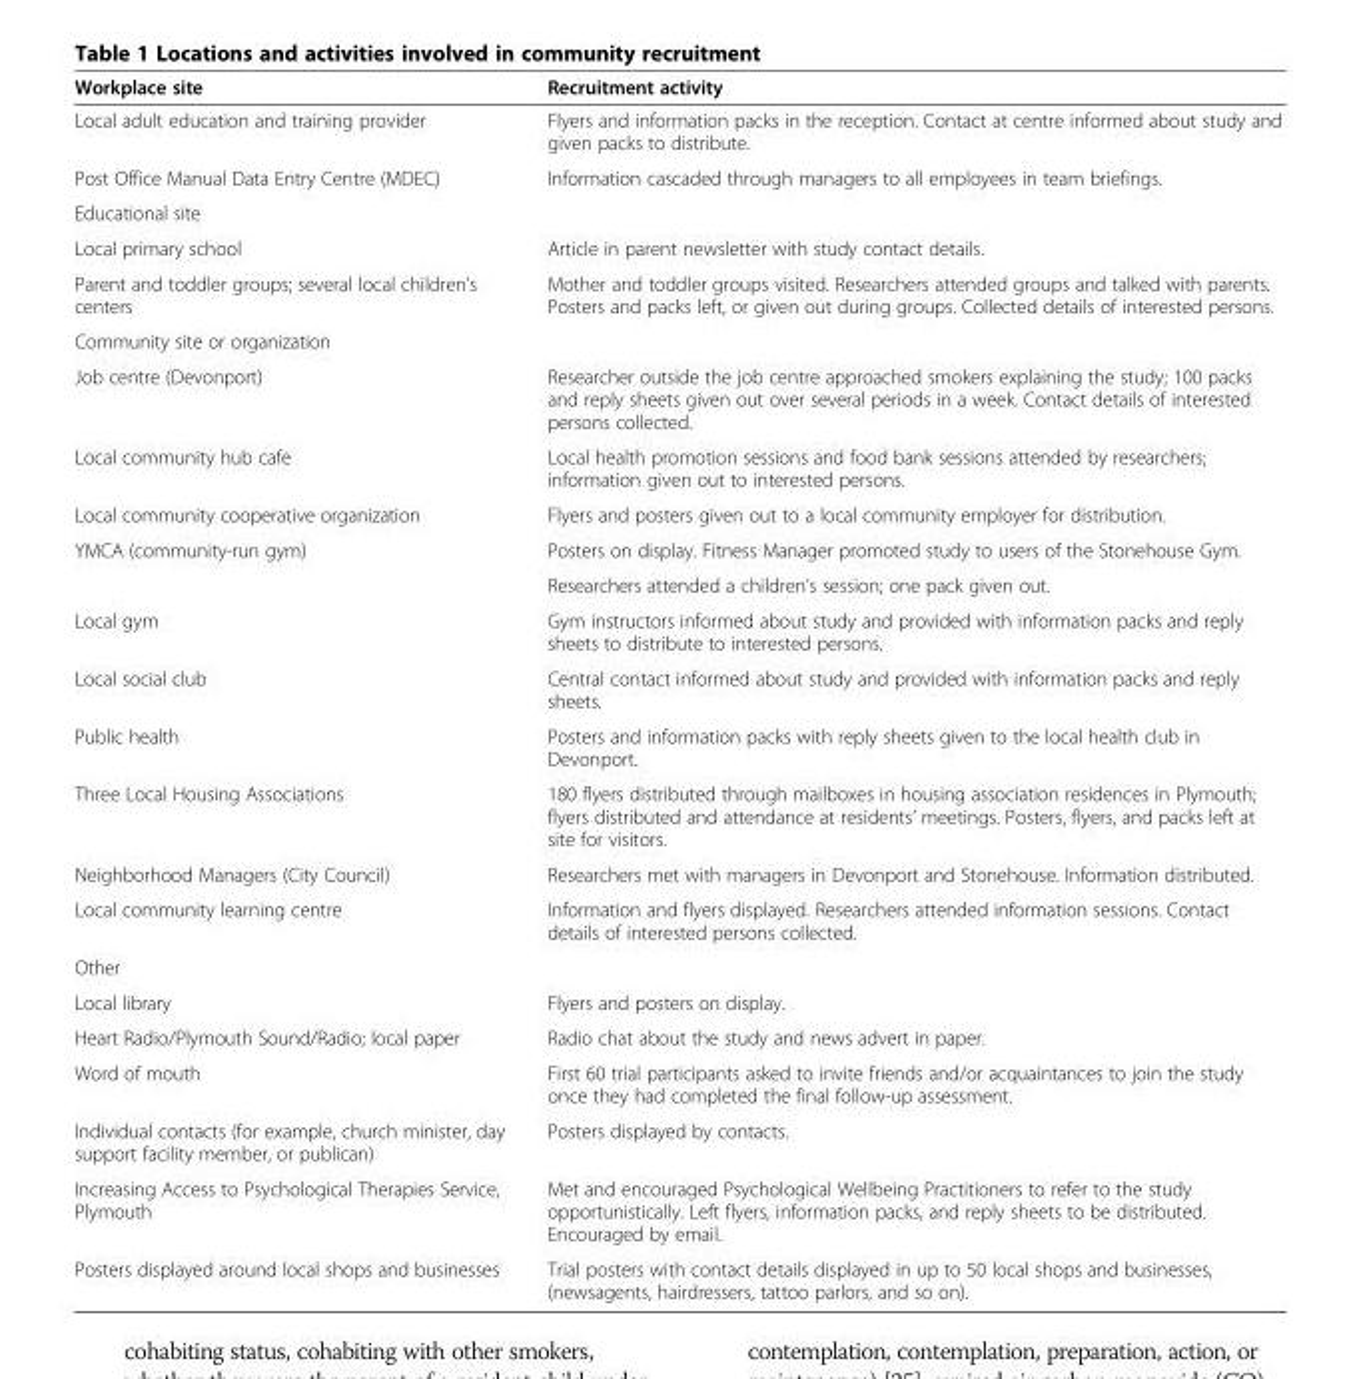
<table><thead><tr><td>Workplace site</td><td>Recruitment activity</td></tr></thead><tbody><tr><td>Local adult education and training provider</td><td>Flyers and information packs in the reception. Contact at centre informed about study and given packs to distribute.</td></tr><tr><td>Post Office Manual Data Entry Centre (MDEC)</td><td>Information cascaded through managers to all employees in team briefings.</td></tr><tr><td colspan="2">Educational site</td></tr><tr><td>Local primary school</td><td>Article in parent newsletter with study contact details.</td></tr><tr><td>Parent and toddler groups; several local children’s centers</td><td>Mother and toddler groups visited. Researchers attended groups and talked with parents. Posters and packs left, or given out during groups. Collected details of interested persons.</td></tr><tr><td colspan="2">Community site or organization</td></tr><tr><td>Job centre (Devonport)</td><td>Researcher outside the job centre approached smokers explaining the study; 100 packs and reply sheets given out over several periods in a week. Contact details of interested persons collected.</td></tr><tr><td>Local community hub cafe</td><td>Local health promotion sessions and food bank sessions attended by researchers; information given out to interested persons.</td></tr><tr><td>Local community cooperative organization</td><td>Flyers and posters given out to a local community employer for distribution.</td></tr><tr><td rowspan="2">YMCA (community-run gym)</td><td>Posters on display. Fitness Manager promoted study to users of the Stonehouse Gym.</td></tr><tr><td>Researchers attended a children’s session; one pack given out.</td></tr><tr><td>Local gym</td><td>Gym instructors informed about study and provided with information packs and reply sheets to distribute to interested persons.</td></tr><tr><td>Local social club</td><td>Central contact informed about study and provided with information packs and reply sheets.</td></tr><tr><td>Public health</td><td>Posters and information packs with reply sheets given to the local health club in Devonport.</td></tr><tr><td>Three Local Housing Associations</td><td>180 flyers distributed through mailboxes in housing association residences in Plymouth; flyers distributed and attendance at residents’ meetings. Posters, flyers, and packs left at site for visitors.</td></tr><tr><td>Neighborhood Managers (City Council)</td><td>Researchers met with managers in Devonport and Stonehouse. Information distributed.</td></tr><tr><td>Local community learning centre</td><td>Information and flyers displayed. Researchers attended information sessions. Contact details of interested persons collected.</td></tr><tr><td colspan="2">Other</td></tr><tr><td>Local library</td><td>Flyers and posters on display.</td></tr><tr><td>Heart Radio/Plymouth Sound/Radio; local paper</td><td>Radio chat about the study and news advert in paper.</td></tr><tr><td>Word of mouth</td><td>First 60 trial participants asked to invite friends and/or acquaintances to join the study once they had completed the final follow-up assessment.</td></tr><tr><td>Individual contacts (for example, church minister, day support facility member, or publican)</td><td>Posters displayed by contacts.</td></tr><tr><td>Increasing Access to Psychological Therapies Service, Plymouth</td><td>Met and encouraged Psychological Wellbeing Practitioners to refer to the study opportunistically. Left flyers, information packs, and reply sheets to be distributed. Encouraged by email.</td></tr><tr><td>Posters displayed around local shops and businesses</td><td>Trial posters with contact details displayed in up to 50 local shops and businesses, (newsagents, hairdressers, tattoo parlors, and so on).</td></tr></tbody></table>